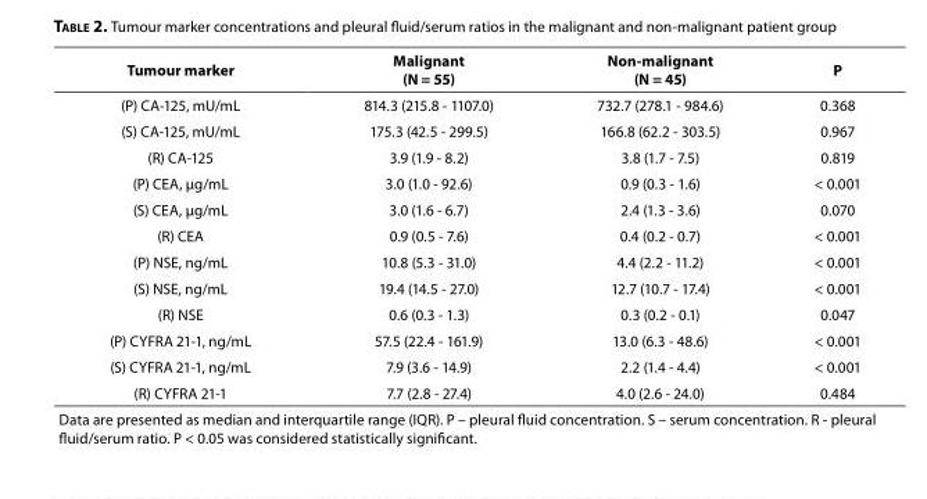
<table><thead><tr><td>Tumour marker</td><td>Malignant (N = 55)</td><td>Non-malignant (N = 45)</td><td>P</td></tr></thead><tbody><tr><td>(P) CA-125, mU/mL</td><td>814.3 (215.8 - 1107.0)</td><td>732.7 (278.1 - 984.6)</td><td>0.368</td></tr><tr><td>(S) CA-125, mU/mL</td><td>175.3 (42.5 - 299.5)</td><td>166.8 (62.2 - 303.5)</td><td>0.967</td></tr><tr><td>(R) CA-125</td><td>3.9 (1.9 - 8.2)</td><td>3.8 (1.7 - 7.5)</td><td>0.819</td></tr><tr><td>(P) CEA, µg/mL</td><td>3.0 (1.0 - 92.6)</td><td>0.9 (0.3 - 1.6)</td><td>&lt; 0.001</td></tr><tr><td>(S) CEA, µg/mL</td><td>3.0 (1.6 - 6.7)</td><td>2.4 (1.3 - 3.6)</td><td>0.070</td></tr><tr><td>(R) CEA</td><td>0.9 (0.5 - 7.6)</td><td>0.4 (0.2 - 0.7)</td><td>&lt; 0.001</td></tr><tr><td>(P) NSE, ng/mL</td><td>10.8 (5.3 - 31.0)</td><td>4.4 (2.2 - 11.2)</td><td>&lt; 0.001</td></tr><tr><td>(S) NSE, ng/mL</td><td>19.4 (14.5 - 27.0)</td><td>12.7 (10.7 - 17.4)</td><td>&lt; 0.001</td></tr><tr><td>(R) NSE</td><td>0.6 (0.3 - 1.3)</td><td>0.3 (0.2 - 0.1)</td><td>0.047</td></tr><tr><td>(P) CYFRA 21-1, ng/mL</td><td>57.5 (22.4 - 161.9)</td><td>13.0 (6.3 - 48.6)</td><td>&lt; 0.001</td></tr><tr><td>(S) CYFRA 21-1, ng/mL</td><td>7.9 (3.6 - 14.9)</td><td>2.2 (1.4 - 4.4)</td><td>&lt; 0.001</td></tr><tr><td>(R) CYFRA 21-1</td><td>7.7 (2.8 - 27.4)</td><td>4.0 (2.6 - 24.0)</td><td>0.484</td></tr><tr><td colspan="4">Data are presented as median and interquartile range (IQR). P – pleural fluid concentration. S – serum concentration. R - pleural fluid/serum ratio. P &lt; 0.05 was considered statistically significant.</td></tr></tbody></table>